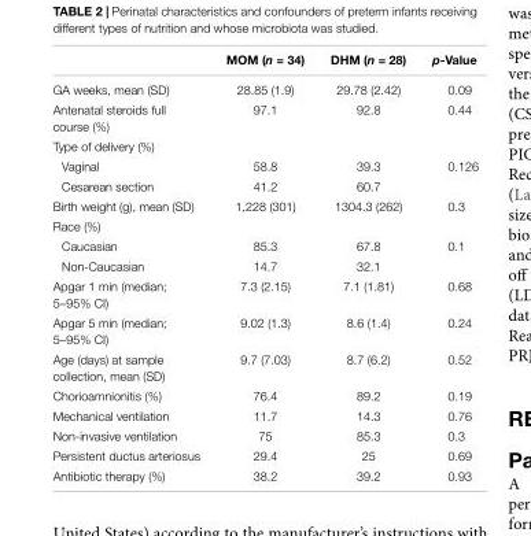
<table><thead><tr><td></td><td>MOM (n = 34)</td><td>DHM (n = 28)</td><td>p-Value</td></tr></thead><tbody><tr><td>GA weeks, mean (SD)</td><td>28.85 (1.9)</td><td>29.78 (2.42)</td><td>0.09</td></tr><tr><td>Antenatal steroids full course (%)</td><td>97.1</td><td>92.8</td><td>0.44</td></tr><tr><td colspan="4">Type of delivery (%)</td></tr><tr><td>Vaginal</td><td>58.8</td><td>39.3</td><td>0.126</td></tr><tr><td>Cesarean section</td><td>41.2</td><td>60.7</td><td></td></tr><tr><td>Birth weight (g), mean (SD)</td><td>1,228 (301)</td><td>1304.3 (262)</td><td>0.3</td></tr><tr><td colspan="4">Race (%)</td></tr><tr><td>Caucasian</td><td>85.3</td><td>67.8</td><td>0.1</td></tr><tr><td>Non-Caucasian</td><td>14.7</td><td>32.1</td><td></td></tr><tr><td>Apgar 1 min (median; 5–95% CI)</td><td>7.3 (2.15)</td><td>7.1 (1.81)</td><td>0.68</td></tr><tr><td>Apgar 5 min (median; 5–95% CI)</td><td>9.02 (1.3)</td><td>8.6 (1.4)</td><td>0.24</td></tr><tr><td>Age (days) at sample collection, mean (SD)</td><td>9.7 (7.03)</td><td>8.7 (6.2)</td><td>0.52</td></tr><tr><td>Chorioamnionitis (%)</td><td>76.4</td><td>89.2</td><td>0.19</td></tr><tr><td>Mechanical ventilation</td><td>11.7</td><td>14.3</td><td>0.76</td></tr><tr><td>Non-invasive ventilation</td><td>75</td><td>85.3</td><td>0.3</td></tr><tr><td>Persistent ductus arteriosus</td><td>29.4</td><td>25</td><td>0.69</td></tr><tr><td>Antibiotic therapy (%)</td><td>38.2</td><td>39.2</td><td>0.93</td></tr></tbody></table>